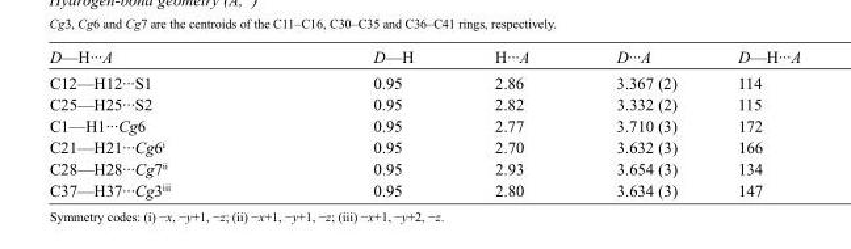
<table><tbody><tr><td>D—H···A</td><td>D—H</td><td>H···A</td><td>D···A</td><td>D—H···A</td></tr><tr><td>C12—H12···S1</td><td>0.95</td><td>2.86</td><td>3.367 (2)</td><td>114</td></tr><tr><td>C25—H25···S2</td><td>0.95</td><td>2.82</td><td>3.332 (2)</td><td>115</td></tr><tr><td>C1—H1···Cg6</td><td>0.95</td><td>2.77</td><td>3.710 (3)</td><td>172</td></tr><tr><td>C21—H21···Cg6<sup>i</sup></td><td>0.95</td><td>2.70</td><td>3.632 (3)</td><td>166</td></tr><tr><td>C28—H28···Cg7<sup>ii</sup></td><td>0.95</td><td>2.93</td><td>3.654 (3)</td><td>134</td></tr><tr><td>C37—H37···Cg3<sup>iii</sup></td><td>0.95</td><td>2.80</td><td>3.634 (3)</td><td>147</td></tr></tbody></table>